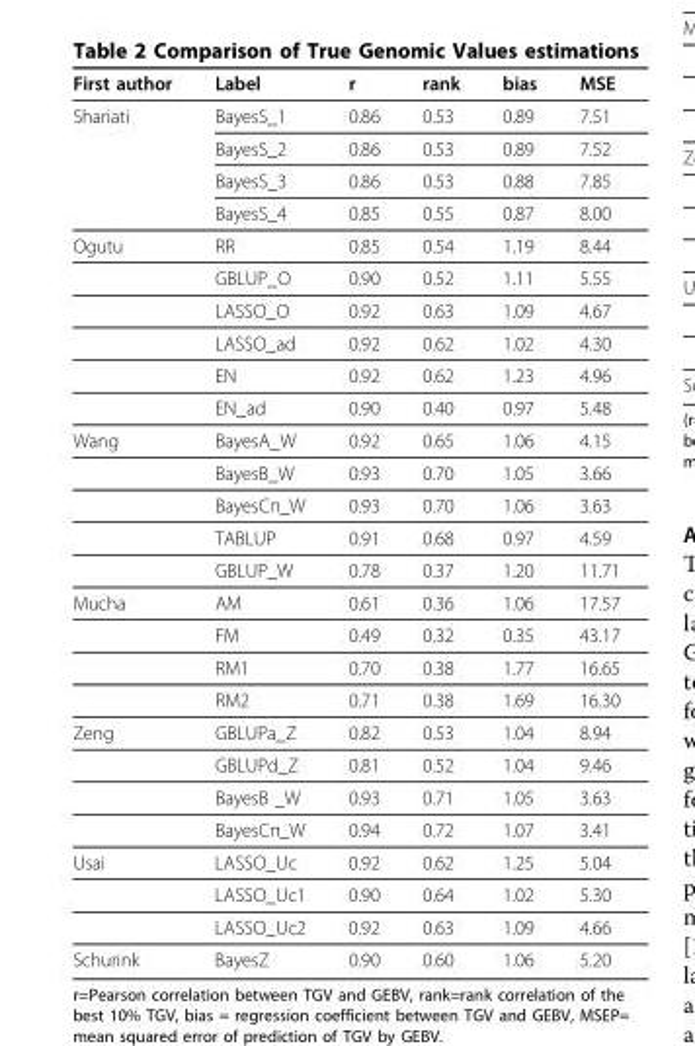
<table><thead><tr><td>First author</td><td>Label</td><td>r</td><td>rank</td><td>bias</td><td>MSE</td></tr></thead><tbody><tr><td rowspan="4">Shariati</td><td>BayesS_1</td><td>0.86</td><td>0.53</td><td>0.89</td><td>7.51</td></tr><tr><td>BayesS_2</td><td>0.86</td><td>0.53</td><td>0.89</td><td>7.52</td></tr><tr><td>BayesS_3</td><td>0.86</td><td>0.53</td><td>0.88</td><td>7.85</td></tr><tr><td>BayesS_4</td><td>0.85</td><td>0.55</td><td>0.87</td><td>8.00</td></tr><tr><td rowspan="6">Ogutu</td><td>RR</td><td>0.85</td><td>0.54</td><td>1.19</td><td>8.44</td></tr><tr><td>GBLUP_O</td><td>0.90</td><td>0.52</td><td>1.11</td><td>5.55</td></tr><tr><td>LASSO_O</td><td>0.92</td><td>0.63</td><td>1.09</td><td>4.67</td></tr><tr><td>LASSO_ad</td><td>0.92</td><td>0.62</td><td>1.02</td><td>4.30</td></tr><tr><td>EN</td><td>0.92</td><td>0.62</td><td>1.23</td><td>4.96</td></tr><tr><td>EN_ad</td><td>0.90</td><td>0.40</td><td>0.97</td><td>5.48</td></tr><tr><td rowspan="5">Wang</td><td>BayesA_W</td><td>0.92</td><td>0.65</td><td>1.06</td><td>4.15</td></tr><tr><td>BayesB_W</td><td>0.93</td><td>0.70</td><td>1.05</td><td>3.66</td></tr><tr><td>BayesCπ_W</td><td>0.93</td><td>0.70</td><td>1.06</td><td>3.63</td></tr><tr><td>TABLUP</td><td>0.91</td><td>0.68</td><td>0.97</td><td>4.59</td></tr><tr><td>GBLUP_W</td><td>0.78</td><td>0.37</td><td>1.20</td><td>11.71</td></tr><tr><td rowspan="4">Mucha</td><td>AM</td><td>0.61</td><td>0.36</td><td>1.06</td><td>17.57</td></tr><tr><td>FM</td><td>0.49</td><td>0.32</td><td>0.35</td><td>43.17</td></tr><tr><td>RM1</td><td>0.70</td><td>0.38</td><td>1.77</td><td>16.65</td></tr><tr><td>RM2</td><td>0.71</td><td>0.38</td><td>1.69</td><td>16.30</td></tr><tr><td rowspan="4">Zeng</td><td>GBLUPa_Z</td><td>0.82</td><td>0.53</td><td>1.04</td><td>8.94</td></tr><tr><td>GBLUPd_Z</td><td>0.81</td><td>0.52</td><td>1.04</td><td>9.46</td></tr><tr><td>BayesB _W</td><td>0.93</td><td>0.71</td><td>1.05</td><td>3.63</td></tr><tr><td>BayesCπ_W</td><td>0.94</td><td>0.72</td><td>1.07</td><td>3.41</td></tr><tr><td rowspan="3">Usai</td><td>LASSO_Uc</td><td>0.92</td><td>0.62</td><td>1.25</td><td>5.04</td></tr><tr><td>LASSO_Uc1</td><td>0.90</td><td>0.64</td><td>1.02</td><td>5.30</td></tr><tr><td>LASSO_Uc2</td><td>0.92</td><td>0.63</td><td>1.09</td><td>4.66</td></tr><tr><td>Schurink</td><td>BayesZ</td><td>0.90</td><td>0.60</td><td>1.06</td><td>5.20</td></tr></tbody></table>